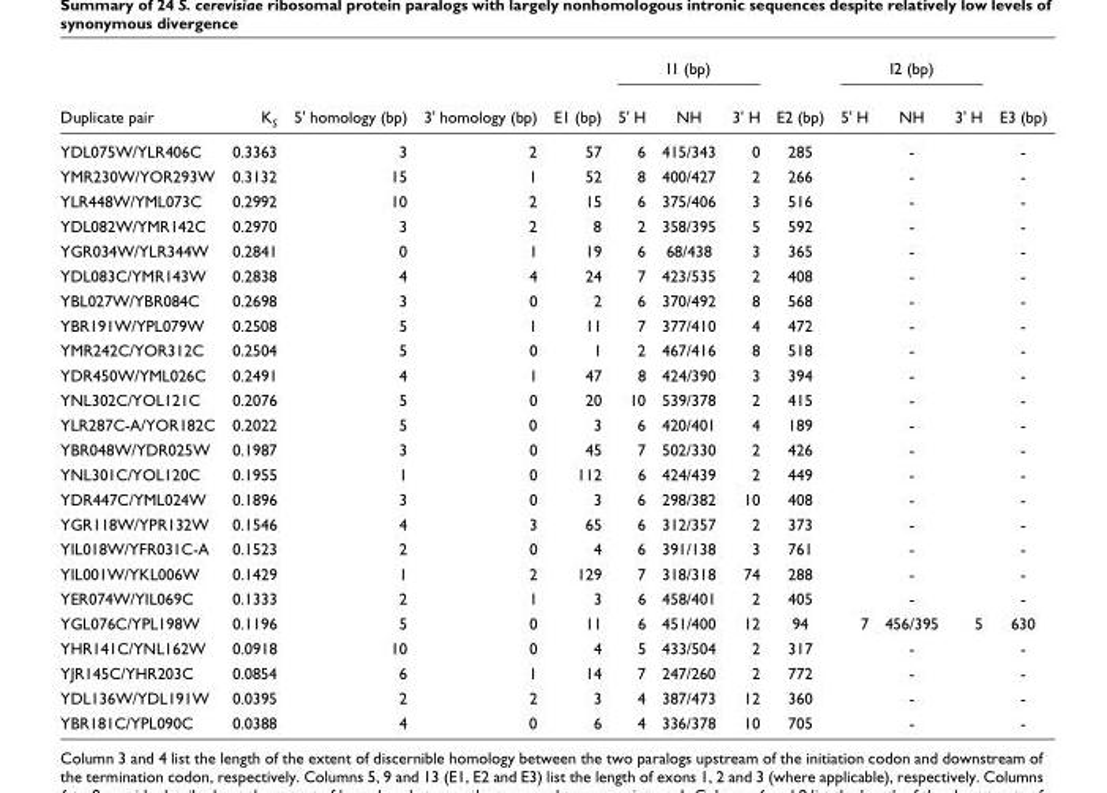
<table><thead><tr><td rowspan="2">Duplicate pair</td><td rowspan="2">K<sub>S</sub></td><td rowspan="2">5&#x27; homology (bp)</td><td rowspan="2">3&#x27; homology (bp)</td><td rowspan="2">E1 (bp)</td><td colspan="3">I1 (bp)</td><td rowspan="2">E2 (bp)</td><td colspan="3">I2 (bp)</td><td rowspan="2">E3 (bp)</td></tr><tr><td>5&#x27; H</td><td>NH</td><td>3&#x27; H</td><td>5&#x27; H</td><td>NH</td><td>3&#x27; H</td></tr></thead><tbody><tr><td>YDL075W/YLR406C</td><td>0.3363</td><td>3</td><td>2</td><td>57</td><td>6</td><td>415/343</td><td>0</td><td>285</td><td></td><td>-</td><td></td><td>-</td></tr><tr><td>YMR230W/YOR293W</td><td>0.3132</td><td>15</td><td>1</td><td>52</td><td>8</td><td>400/427</td><td>2</td><td>266</td><td></td><td>-</td><td></td><td>-</td></tr><tr><td>YLR448W/YML073C</td><td>0.2992</td><td>10</td><td>2</td><td>15</td><td>6</td><td>375/406</td><td>3</td><td>516</td><td></td><td>-</td><td></td><td>-</td></tr><tr><td>YDL082W/YMR142C</td><td>0.2970</td><td>3</td><td>2</td><td>8</td><td>2</td><td>358/395</td><td>5</td><td>592</td><td></td><td>-</td><td></td><td>-</td></tr><tr><td>YGR034W/YLR344W</td><td>0.2841</td><td>0</td><td>1</td><td>19</td><td>6</td><td>68/438</td><td>3</td><td>365</td><td></td><td>-</td><td></td><td>-</td></tr><tr><td>YDL083C/YMR143W</td><td>0.2838</td><td>4</td><td>4</td><td>24</td><td>7</td><td>423/535</td><td>2</td><td>408</td><td></td><td>-</td><td></td><td>-</td></tr><tr><td>YBL027W/YBR084C</td><td>0.2698</td><td>3</td><td>0</td><td>2</td><td>6</td><td>370/492</td><td>8</td><td>568</td><td></td><td>-</td><td></td><td>-</td></tr><tr><td>YBR191W/YPL079W</td><td>0.2508</td><td>5</td><td>1</td><td>11</td><td>7</td><td>377/410</td><td>4</td><td>472</td><td></td><td>-</td><td></td><td>-</td></tr><tr><td>YMR242C/YOR312C</td><td>0.2504</td><td>5</td><td>0</td><td>1</td><td>2</td><td>467/416</td><td>8</td><td>518</td><td></td><td>-</td><td></td><td>-</td></tr><tr><td>YDR450W/YML026C</td><td>0.2491</td><td>4</td><td>1</td><td>47</td><td>8</td><td>424/390</td><td>3</td><td>394</td><td></td><td>-</td><td></td><td>-</td></tr><tr><td>YNL302C/YOL121C</td><td>0.2076</td><td>5</td><td>0</td><td>20</td><td>10</td><td>539/378</td><td>2</td><td>415</td><td></td><td>-</td><td></td><td>-</td></tr><tr><td>YLR287C-A/YOR182C</td><td>0.2022</td><td>5</td><td>0</td><td>3</td><td>6</td><td>420/401</td><td>4</td><td>189</td><td></td><td>-</td><td></td><td>-</td></tr><tr><td>YBR048W/YDR025W</td><td>0.1987</td><td>3</td><td>0</td><td>45</td><td>7</td><td>502/330</td><td>2</td><td>426</td><td></td><td>-</td><td></td><td>-</td></tr><tr><td>YNL301C/YOL120C</td><td>0.1955</td><td>1</td><td>0</td><td>112</td><td>6</td><td>424/439</td><td>2</td><td>449</td><td></td><td>-</td><td></td><td>-</td></tr><tr><td>YDR447C/YML024W</td><td>0.1896</td><td>3</td><td>0</td><td>3</td><td>6</td><td>298/382</td><td>10</td><td>408</td><td></td><td>-</td><td></td><td>-</td></tr><tr><td>YGR118W/YPR132W</td><td>0.1546</td><td>4</td><td>3</td><td>65</td><td>6</td><td>312/357</td><td>2</td><td>373</td><td></td><td>-</td><td></td><td>-</td></tr><tr><td>YIL018W/YFR031C-A</td><td>0.1523</td><td>2</td><td>0</td><td>4</td><td>6</td><td>391/138</td><td>3</td><td>761</td><td></td><td>-</td><td></td><td>-</td></tr><tr><td>YIL001W/YKL006W</td><td>0.1429</td><td>1</td><td>2</td><td>129</td><td>7</td><td>318/318</td><td>74</td><td>288</td><td></td><td>-</td><td></td><td>-</td></tr><tr><td>YER074W/YIL069C</td><td>0.1333</td><td>2</td><td>1</td><td>3</td><td>6</td><td>458/401</td><td>2</td><td>405</td><td></td><td>-</td><td></td><td>-</td></tr><tr><td>YGL076C/YPL198W</td><td>0.1196</td><td>5</td><td>0</td><td>11</td><td>6</td><td>451/400</td><td>12</td><td>94</td><td>7</td><td>456/395</td><td>5</td><td>630</td></tr><tr><td>YHR141C/YNL162W</td><td>0.0918</td><td>10</td><td>0</td><td>4</td><td>5</td><td>433/504</td><td>2</td><td>317</td><td></td><td>-</td><td></td><td>-</td></tr><tr><td>YJR145C/YHR203C</td><td>0.0854</td><td>6</td><td>1</td><td>14</td><td>7</td><td>247/260</td><td>2</td><td>772</td><td></td><td>-</td><td></td><td>-</td></tr><tr><td>YDL136W/YDL191W</td><td>0.0395</td><td>2</td><td>2</td><td>3</td><td>4</td><td>387/473</td><td>12</td><td>360</td><td></td><td>-</td><td></td><td>-</td></tr><tr><td>YBR181C/YPL090C</td><td>0.0388</td><td>4</td><td>0</td><td>6</td><td>4</td><td>336/378</td><td>10</td><td>705</td><td></td><td>-</td><td></td><td>-</td></tr></tbody></table>